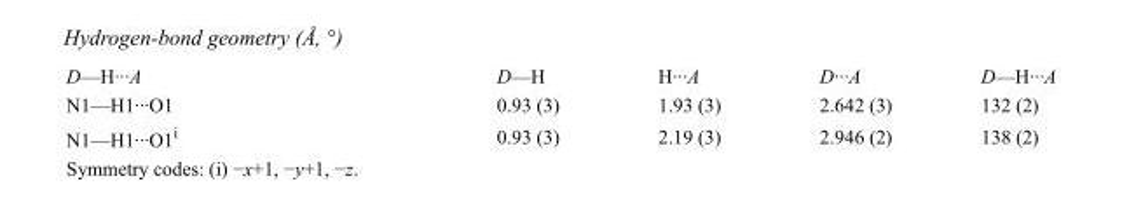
<table><tbody><tr><td>D—H···A</td><td>D—H</td><td>H···A</td><td>D···A</td><td>D—H···A</td></tr><tr><td>N1—H1···O1</td><td>0.93 (3)</td><td>1.93 (3)</td><td>2.642 (3)</td><td>132 (2)</td></tr><tr><td>N1—H1···O1<sup>i</sup></td><td>0.93 (3)</td><td>2.19 (3)</td><td>2.946 (2)</td><td>138 (2)</td></tr></tbody></table>